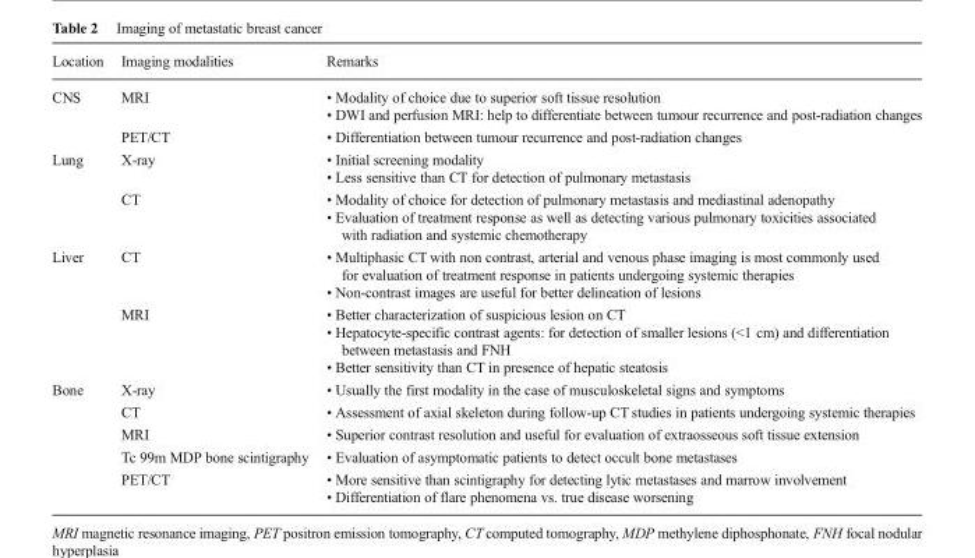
<table><thead><tr><td>Location</td><td>Imaging modalities</td><td>Remarks</td></tr></thead><tbody><tr><td rowspan="2">CNS</td><td>MRI</td><td>• Modality of choice due to superior soft tissue resolution • DWI and perfusion MRI: help to differentiate between tumour recurrence and post-radiation changes</td></tr><tr><td>PET/CT</td><td>• Differentiation between tumour recurrence and post-radiation changes</td></tr><tr><td rowspan="2">Lung</td><td>X-ray</td><td>• Initial screening modality • Less sensitive than CT for detection of pulmonary metastasis</td></tr><tr><td>CT</td><td>• Modality of choice for detection of pulmonary metastasis and mediastinal adenopathy • Evaluation of treatment response as well as detecting various pulmonary toxicities associated with radiation and systemic chemotherapy</td></tr><tr><td rowspan="2">Liver</td><td>CT</td><td>• Multiphasic CT with non contrast, arterial and venous phase imaging is most commonly used for evaluation of treatment response in patients undergoing systemic therapies • Non-contrast images are useful for better delineation of lesions</td></tr><tr><td>MRI</td><td>• Better characterization of suspicious lesion on CT • Hepatocyte-specific contrast agents: for detection of smaller lesions (&lt;1 cm) and differentiation between metastasis and FNH • Better sensitivity than CT in presence of hepatic steatosis</td></tr><tr><td rowspan="5">Bone</td><td>X-ray</td><td>• Usually the first modality in the case of musculoskeletal signs and symptoms</td></tr><tr><td>CT</td><td>• Assessment of axial skeleton during follow-up CT studies in patients undergoing systemic therapies</td></tr><tr><td>MRI</td><td>• Superior contrast resolution and useful for evaluation of extraosseous soft tissue extension</td></tr><tr><td>Tc 99m MDP bone scintigraphy</td><td>• Evaluation of asymptomatic patients to detect occult bone metastases</td></tr><tr><td>PET/CT</td><td>• More sensitive than scintigraphy for detecting lytic metastases and marrow involvement • Differentiation of flare phenomena vs. true disease worsening</td></tr></tbody></table>